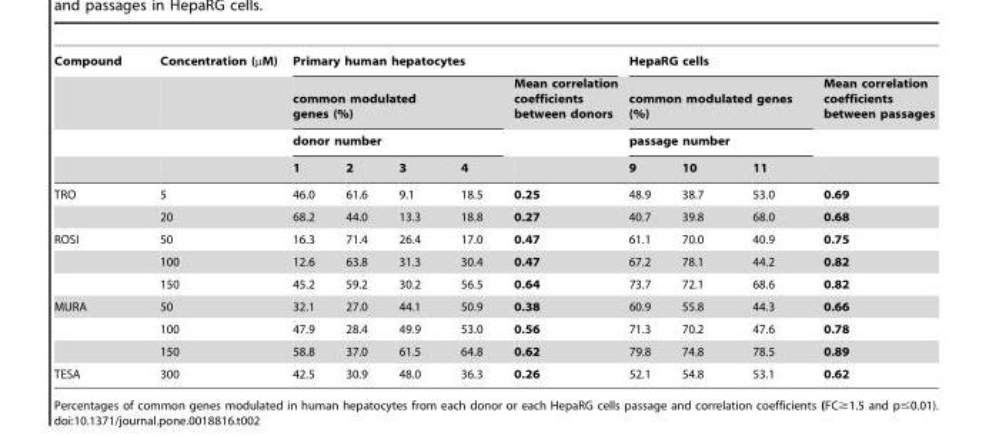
<table><thead><tr><td rowspan="4">Compound</td><td rowspan="4">Concentration (µM)</td><td colspan="5">Primary human hepatocytes</td><td colspan="4">HepaRG cells</td></tr><tr><td rowspan="2" colspan="4">common modulated genes (%) donor number</td><td rowspan="3">Mean correlation coefficients between donors</td><td rowspan="2" colspan="3">common modulated genes (%) passage number</td><td rowspan="3">Mean correlation coefficients between passages</td></tr><tr></tr><tr><td>1</td><td>2</td><td>3</td><td>4</td><td>9</td><td>10</td><td>11</td></tr></thead><tbody><tr><td rowspan="2">TRO</td><td>5</td><td>46.0</td><td>61.6</td><td>9.1</td><td>18.5</td><td>0.25</td><td>48.9</td><td>38.7</td><td>53.0</td><td>0.69</td></tr><tr><td>20</td><td>68.2</td><td>44.0</td><td>13.3</td><td>18.8</td><td>0.27</td><td>40.7</td><td>39.8</td><td>68.0</td><td>0.68</td></tr><tr><td rowspan="3">ROSI</td><td>50</td><td>16.3</td><td>71.4</td><td>26.4</td><td>17.0</td><td>0.47</td><td>61.1</td><td>70.0</td><td>40.9</td><td>0.75</td></tr><tr><td>100</td><td>12.6</td><td>63.8</td><td>31.3</td><td>30.4</td><td>0.47</td><td>67.2</td><td>78.1</td><td>44.2</td><td>0.82</td></tr><tr><td>150</td><td>45.2</td><td>59.2</td><td>30.2</td><td>56.5</td><td>0.64</td><td>73.7</td><td>72.1</td><td>68.6</td><td>0.82</td></tr><tr><td rowspan="3">MURA</td><td>50</td><td>32.1</td><td>27.0</td><td>44.1</td><td>50.9</td><td>0.38</td><td>60.9</td><td>55.8</td><td>44.3</td><td>0.66</td></tr><tr><td>100</td><td>47.9</td><td>28.4</td><td>49.9</td><td>53.0</td><td>0.56</td><td>71.3</td><td>70.2</td><td>47.6</td><td>0.78</td></tr><tr><td>150</td><td>58.8</td><td>37.0</td><td>61.5</td><td>64.8</td><td>0.62</td><td>79.8</td><td>74.8</td><td>78.5</td><td>0.89</td></tr><tr><td>TESA</td><td>300</td><td>42.5</td><td>30.9</td><td>48.0</td><td>36.3</td><td>0.26</td><td>52.1</td><td>54.8</td><td>53.1</td><td>0.62</td></tr></tbody></table>